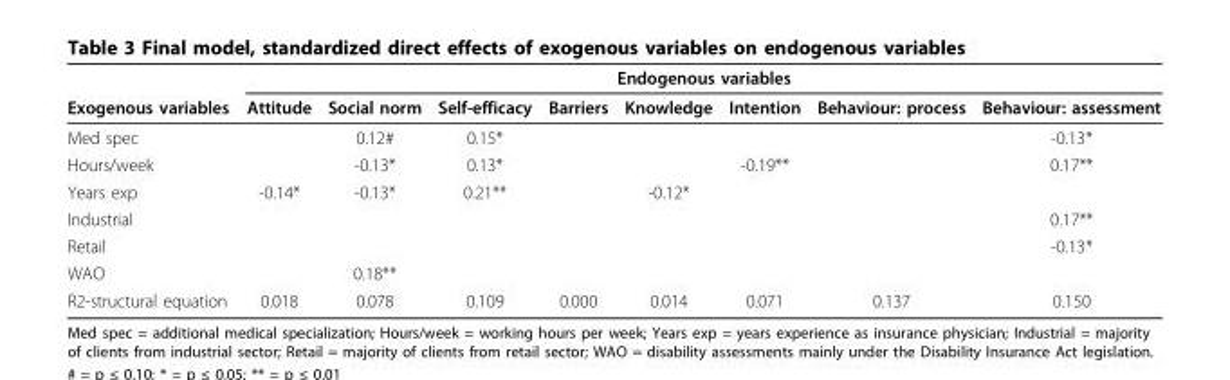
<table><thead><tr><td rowspan="2">Exogenous variables</td><td colspan="8">Endogenous variables</td></tr><tr><td>Attitude</td><td>Social norm</td><td>Self-efficacy</td><td>Barriers</td><td>Knowledge</td><td>Intention</td><td>Behaviour: process</td><td>Behaviour: assessment</td></tr></thead><tbody><tr><td>Med spec</td><td></td><td>0.12#</td><td>0.15*</td><td></td><td></td><td></td><td></td><td>-0.13*</td></tr><tr><td>Hours/week</td><td></td><td>-0.13*</td><td>0.13*</td><td></td><td></td><td>-0.19**</td><td></td><td>0.17**</td></tr><tr><td>Years exp</td><td>-0.14*</td><td>-0.13*</td><td>0.21**</td><td></td><td>-0.12*</td><td></td><td></td><td></td></tr><tr><td>Industrial</td><td></td><td></td><td></td><td></td><td></td><td></td><td></td><td>0.17**</td></tr><tr><td>Retail</td><td></td><td></td><td></td><td></td><td></td><td></td><td></td><td>-0.13*</td></tr><tr><td>WAO</td><td></td><td>0.18**</td><td></td><td></td><td></td><td></td><td></td><td></td></tr><tr><td>R2-structural equation</td><td>0.018</td><td>0.078</td><td>0.109</td><td>0.000</td><td>0.014</td><td>0.071</td><td>0.137</td><td>0.150</td></tr></tbody></table>